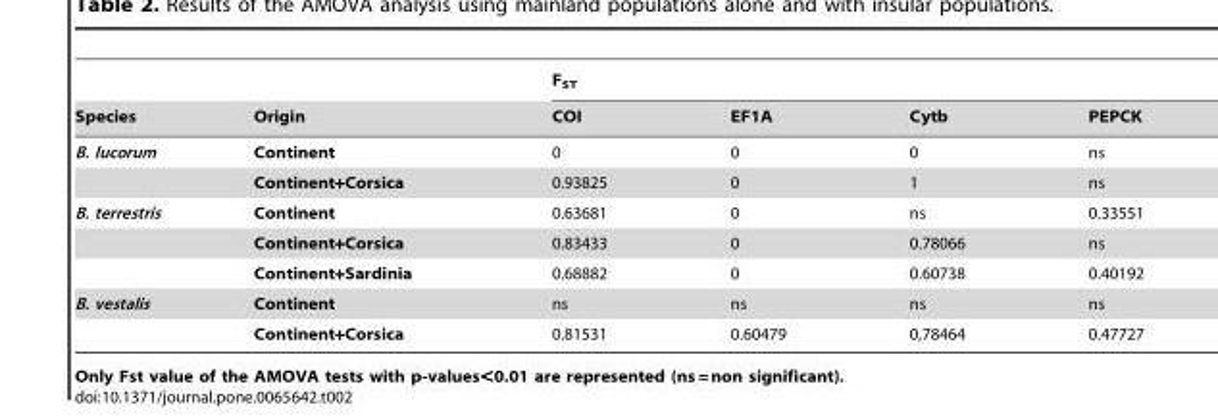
<table><thead><tr><td rowspan="2">Species</td><td rowspan="2">Origin</td><td colspan="4">F<sub>ST</sub></td></tr><tr><td>COI</td><td>EF1A</td><td>Cytb</td><td>PEPCK</td></tr></thead><tbody><tr><td rowspan="2">B. lucorum</td><td>Continent</td><td>0</td><td>0</td><td>0</td><td>ns</td></tr><tr><td>Continent+Corsica</td><td>0.93825</td><td>0</td><td>1</td><td>ns</td></tr><tr><td rowspan="3">B. terrestris</td><td>Continent</td><td>0.63681</td><td>0</td><td>ns</td><td>0.33551</td></tr><tr><td>Continent+Corsica</td><td>0.83433</td><td>0</td><td>0.78066</td><td>ns</td></tr><tr><td>Continent+Sardinia</td><td>0.68882</td><td>0</td><td>0.60738</td><td>0.40192</td></tr><tr><td rowspan="2">B. vestalis</td><td>Continent</td><td>ns</td><td>ns</td><td>ns</td><td>ns</td></tr><tr><td>Continent+Corsica</td><td>0.81531</td><td>0.60479</td><td>0,78464</td><td>0.47727</td></tr></tbody></table>